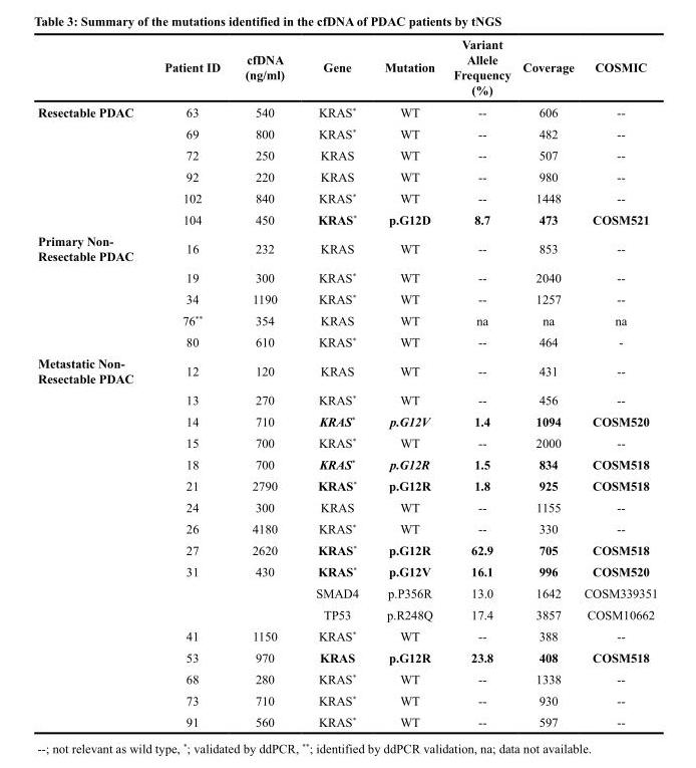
<table><thead><tr><td></td><td>Patient ID</td><td>cfDNA (ng/ml)</td><td>Gene</td><td>Mutation</td><td>Variant Allele Frequency (%)</td><td>Coverage</td><td>COSMIC</td></tr></thead><tbody><tr><td rowspan="6">Resectable PDAC</td><td>63</td><td>540</td><td>KRAS*</td><td>WT</td><td>--</td><td>606</td><td>--</td></tr><tr><td>69</td><td>800</td><td>KRAS*</td><td>WT</td><td>--</td><td>482</td><td>--</td></tr><tr><td>72</td><td>250</td><td>KRAS</td><td>WT</td><td>--</td><td>507</td><td>--</td></tr><tr><td>92</td><td>220</td><td>KRAS</td><td>WT</td><td>--</td><td>980</td><td>--</td></tr><tr><td>102</td><td>840</td><td>KRAS*</td><td>WT</td><td>--</td><td>1448</td><td>--</td></tr><tr><td>104</td><td>450</td><td>KRAS*</td><td>p.G12D</td><td>8.7</td><td>473</td><td>COSM521</td></tr><tr><td rowspan="5">Primary Non- Resectable PDAC</td><td>16</td><td>232</td><td>KRAS</td><td>WT</td><td>--</td><td>853</td><td>--</td></tr><tr><td>19</td><td>300</td><td>KRAS*</td><td>WT</td><td>--</td><td>2040</td><td>--</td></tr><tr><td>34</td><td>1190</td><td>KRAS*</td><td>WT</td><td>--</td><td>1257</td><td>--</td></tr><tr><td>76**</td><td>354</td><td>KRAS</td><td>WT</td><td>na</td><td>na</td><td>na</td></tr><tr><td>80</td><td>610</td><td>KRAS*</td><td>WT</td><td>--</td><td>464</td><td>-</td></tr><tr><td rowspan="17">Metastatic Non- Resectable PDAC</td><td>12</td><td>120</td><td>KRAS</td><td>WT</td><td>--</td><td>431</td><td>--</td></tr><tr><td>13</td><td>270</td><td>KRAS*</td><td>WT</td><td>--</td><td>456</td><td>--</td></tr><tr><td>14</td><td>710</td><td>KRAS*</td><td>p.G12V</td><td>1.4</td><td>1094</td><td>COSM520</td></tr><tr><td>15</td><td>700</td><td>KRAS*</td><td>WT</td><td>--</td><td>2000</td><td>--</td></tr><tr><td>18</td><td>700</td><td>KRAS*</td><td>p.G12R</td><td>1.5</td><td>834</td><td>COSM518</td></tr><tr><td>21</td><td>2790</td><td>KRAS*</td><td>p.G12R</td><td>1.8</td><td>925</td><td>COSM518</td></tr><tr><td>24</td><td>300</td><td>KRAS</td><td>WT</td><td>--</td><td>1155</td><td>--</td></tr><tr><td>26</td><td>4180</td><td>KRAS*</td><td>WT</td><td>--</td><td>330</td><td>--</td></tr><tr><td>27</td><td>2620</td><td>KRAS*</td><td>p.G12R</td><td>62.9</td><td>705</td><td>COSM518</td></tr><tr><td>31</td><td>430</td><td>KRAS*</td><td>p.G12V</td><td>16.1</td><td>996</td><td>COSM520</td></tr><tr><td></td><td></td><td>SMAD4</td><td>p.P356R</td><td>13.0</td><td>1642</td><td>COSM339351</td></tr><tr><td></td><td></td><td>TP53</td><td>p.R248Q</td><td>17.4</td><td>3857</td><td>COSM10662</td></tr><tr><td>41</td><td>1150</td><td>KRAS*</td><td>WT</td><td>--</td><td>388</td><td>--</td></tr><tr><td>53</td><td>970</td><td>KRAS</td><td>p.G12R</td><td>23.8</td><td>408</td><td>COSM518</td></tr><tr><td>68</td><td>280</td><td>KRAS*</td><td>WT</td><td>--</td><td>1338</td><td>--</td></tr><tr><td>73</td><td>710</td><td>KRAS*</td><td>WT</td><td>--</td><td>930</td><td>--</td></tr><tr><td>91</td><td>560</td><td>KRAS*</td><td>WT</td><td>--</td><td>597</td><td>--</td></tr></tbody></table>